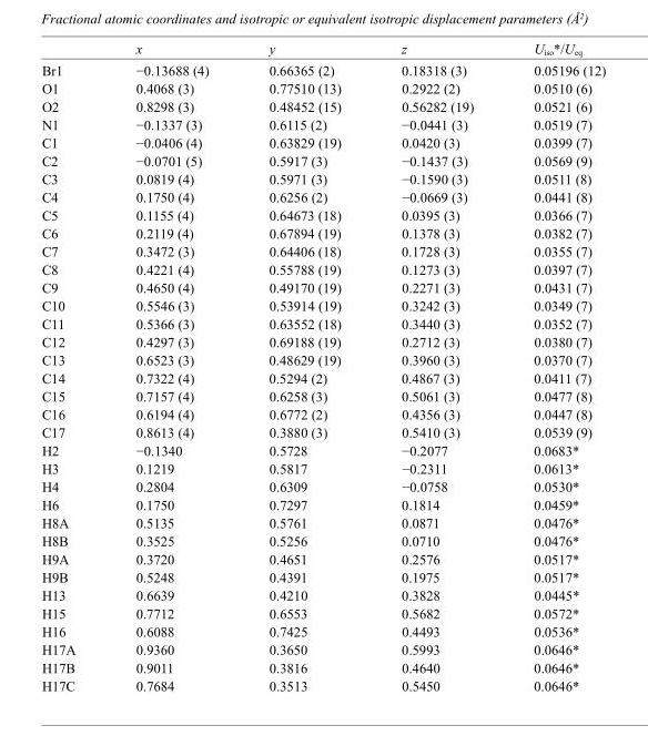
<table><thead><tr><td></td><td>x</td><td>y</td><td>z</td><td>U<sub>iso</sub>*/U<sub>eq</sub></td></tr></thead><tbody><tr><td>Br1</td><td>−0.13688 (4)</td><td>0.66365 (2)</td><td>0.18318 (3)</td><td>0.05196 (12)</td></tr><tr><td>O1</td><td>0.4068 (3)</td><td>0.77510 (13)</td><td>0.2922 (2)</td><td>0.0510 (6)</td></tr><tr><td>O2</td><td>0.8298 (3)</td><td>0.48452 (15)</td><td>0.56282 (19)</td><td>0.0521 (6)</td></tr><tr><td>N1</td><td>−0.1337 (3)</td><td>0.6115 (2)</td><td>−0.0441 (3)</td><td>0.0519 (7)</td></tr><tr><td>C1</td><td>−0.0406 (4)</td><td>0.63829 (19)</td><td>0.0420 (3)</td><td>0.0399 (7)</td></tr><tr><td>C2</td><td>−0.0701 (5)</td><td>0.5917 (3)</td><td>−0.1437 (3)</td><td>0.0569 (9)</td></tr><tr><td>C3</td><td>0.0819 (4)</td><td>0.5971 (3)</td><td>−0.1590 (3)</td><td>0.0511 (8)</td></tr><tr><td>C4</td><td>0.1750 (4)</td><td>0.6256 (2)</td><td>−0.0669 (3)</td><td>0.0441 (8)</td></tr><tr><td>C5</td><td>0.1155 (4)</td><td>0.64673 (18)</td><td>0.0395 (3)</td><td>0.0366 (7)</td></tr><tr><td>C6</td><td>0.2119 (4)</td><td>0.67894 (19)</td><td>0.1378 (3)</td><td>0.0382 (7)</td></tr><tr><td>C7</td><td>0.3472 (3)</td><td>0.64406 (18)</td><td>0.1728 (3)</td><td>0.0355 (7)</td></tr><tr><td>C8</td><td>0.4221 (4)</td><td>0.55788 (19)</td><td>0.1273 (3)</td><td>0.0397 (7)</td></tr><tr><td>C9</td><td>0.4650 (4)</td><td>0.49170 (19)</td><td>0.2271 (3)</td><td>0.0431 (7)</td></tr><tr><td>C10</td><td>0.5546 (3)</td><td>0.53914 (19)</td><td>0.3242 (3)</td><td>0.0349 (7)</td></tr><tr><td>C11</td><td>0.5366 (3)</td><td>0.63552 (18)</td><td>0.3440 (3)</td><td>0.0352 (7)</td></tr><tr><td>C12</td><td>0.4297 (3)</td><td>0.69188 (19)</td><td>0.2712 (3)</td><td>0.0380 (7)</td></tr><tr><td>C13</td><td>0.6523 (3)</td><td>0.48629 (19)</td><td>0.3960 (3)</td><td>0.0370 (7)</td></tr><tr><td>C14</td><td>0.7322 (4)</td><td>0.5294 (2)</td><td>0.4867 (3)</td><td>0.0411 (7)</td></tr><tr><td>C15</td><td>0.7157 (4)</td><td>0.6258 (3)</td><td>0.5061 (3)</td><td>0.0477 (8)</td></tr><tr><td>C16</td><td>0.6194 (4)</td><td>0.6772 (2)</td><td>0.4356 (3)</td><td>0.0447 (8)</td></tr><tr><td>C17</td><td>0.8613 (4)</td><td>0.3880 (3)</td><td>0.5410 (3)</td><td>0.0539 (9)</td></tr><tr><td>H2</td><td>−0.1340</td><td>0.5728</td><td>−0.2077</td><td>0.0683*</td></tr><tr><td>H3</td><td>0.1219</td><td>0.5817</td><td>−0.2311</td><td>0.0613*</td></tr><tr><td>H4</td><td>0.2804</td><td>0.6309</td><td>−0.0758</td><td>0.0530*</td></tr><tr><td>H6</td><td>0.1750</td><td>0.7297</td><td>0.1814</td><td>0.0459*</td></tr><tr><td>H8A</td><td>0.5135</td><td>0.5761</td><td>0.0871</td><td>0.0476*</td></tr><tr><td>H8B</td><td>0.3525</td><td>0.5256</td><td>0.0710</td><td>0.0476*</td></tr><tr><td>H9A</td><td>0.3720</td><td>0.4651</td><td>0.2576</td><td>0.0517*</td></tr><tr><td>H9B</td><td>0.5248</td><td>0.4391</td><td>0.1975</td><td>0.0517*</td></tr><tr><td>H13</td><td>0.6639</td><td>0.4210</td><td>0.3828</td><td>0.0445*</td></tr><tr><td>H15</td><td>0.7712</td><td>0.6553</td><td>0.5682</td><td>0.0572*</td></tr><tr><td>H16</td><td>0.6088</td><td>0.7425</td><td>0.4493</td><td>0.0536*</td></tr><tr><td>H17A</td><td>0.9360</td><td>0.3650</td><td>0.5993</td><td>0.0646*</td></tr><tr><td>H17B</td><td>0.9011</td><td>0.3816</td><td>0.4640</td><td>0.0646*</td></tr><tr><td>H17C</td><td>0.7684</td><td>0.3513</td><td>0.5450</td><td>0.0646*</td></tr></tbody></table>